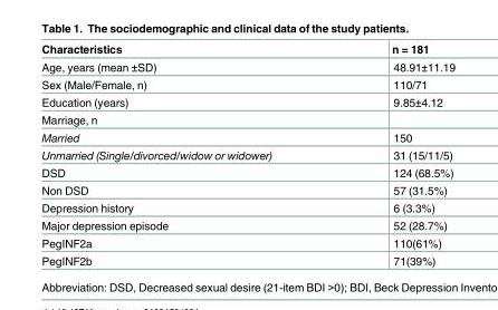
<table><thead><tr><td>Characteristics</td><td>n = 181</td></tr></thead><tbody><tr><td>Age, years (mean ±SD)</td><td>48.91±11.19</td></tr><tr><td>Sex (Male/Female, n)</td><td>110/71</td></tr><tr><td>Education (years)</td><td>9.85±4.12</td></tr><tr><td colspan="2">Marriage, n</td></tr><tr><td>Married</td><td>150</td></tr><tr><td>Unmarried (Single/divorced/widow or widower)</td><td>31 (15/11/5)</td></tr><tr><td>DSD</td><td>124 (68.5%)</td></tr><tr><td>Non DSD</td><td>57 (31.5%)</td></tr><tr><td>Depression history</td><td>6 (3.3%)</td></tr><tr><td>Major depression episode</td><td>52 (28.7%)</td></tr><tr><td>PegINF2a</td><td>110(61%)</td></tr><tr><td>PegINF2b</td><td>71(39%)</td></tr></tbody></table>